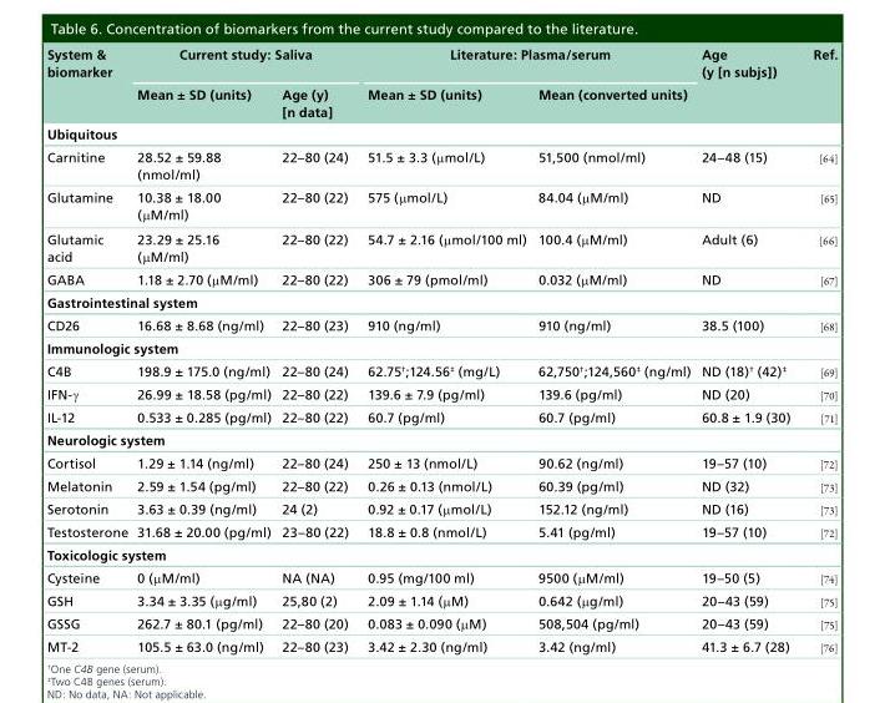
<table><thead><tr><td rowspan="2">System &amp; biomarker</td><td colspan="2">Current study: Saliva</td><td colspan="2">Literature: Plasma/serum</td><td rowspan="2">Age (y [n subjs])</td><td rowspan="2">Ref.</td></tr><tr><td>Mean ± SD (units)</td><td>Age (y) [n data]</td><td>Mean ± SD (units)</td><td>Mean (converted units)</td></tr></thead><tbody><tr><td colspan="7">Ubiquitous</td></tr><tr><td>Carnitine</td><td>28.52 ± 59.88 (nmol/ml)</td><td>22–80 (24)</td><td>51.5 ± 3.3 (μmol/L)</td><td>51,500 (nmol/ml)</td><td>24–48 (15)</td><td>[64]</td></tr><tr><td>Glutamine</td><td>10.38 ± 18.00 (μM/ml)</td><td>22–80 (22)</td><td>575 (μmol/L)</td><td>84.04 (μM/ml)</td><td>ND</td><td>[65]</td></tr><tr><td>Glutamic acid</td><td>23.29 ± 25.16 (μM/ml)</td><td>22–80 (22)</td><td>54.7 ± 2.16 (μmol/100 ml)</td><td>100.4 (μM/ml)</td><td>Adult (6)</td><td>[66]</td></tr><tr><td>GABA</td><td>1.18 ± 2.70 (μM/ml)</td><td>22–80 (22)</td><td>306 ± 79 (pmol/ml)</td><td>0.032 (μM/ml)</td><td>ND</td><td>[67]</td></tr><tr><td colspan="7">Gastrointestinal system</td></tr><tr><td>CD26</td><td>16.68 ± 8.68 (ng/ml)</td><td>22–80 (23)</td><td>910 (ng/ml)</td><td>910 (ng/ml)</td><td>38.5 (100)</td><td>[68]</td></tr><tr><td colspan="7">Immunologic system</td></tr><tr><td>C4B</td><td>198.9 ± 175.0 (ng/ml)</td><td>22–80 (24)</td><td>62.75<sup>†</sup>;124.56<sup>‡</sup> (mg/L)</td><td>62,750<sup>†</sup>;124,560<sup>‡</sup> (ng/ml)</td><td>ND (18)<sup>†</sup> (42)<sup>‡</sup></td><td>[69]</td></tr><tr><td>IFN-γ</td><td>26.99 ± 18.58 (pg/ml)</td><td>22–80 (22)</td><td>139.6 ± 7.9 (pg/ml)</td><td>139.6 (pg/ml)</td><td>ND (20)</td><td>[70]</td></tr><tr><td>IL-12</td><td>0.533 ± 0.285 (pg/ml)</td><td>22–80 (22)</td><td>60.7 (pg/ml)</td><td>60.7 (pg/ml)</td><td>60.8 ± 1.9 (30)</td><td>[71]</td></tr><tr><td colspan="7">Neurologic system</td></tr><tr><td>Cortisol</td><td>1.29 ± 1.14 (ng/ml)</td><td>22–80 (24)</td><td>250 ± 13 (nmol/L)</td><td>90.62 (ng/ml)</td><td>19–57 (10)</td><td>[72]</td></tr><tr><td>Melatonin</td><td>2.59 ± 1.54 (pg/ml)</td><td>22–80 (22)</td><td>0.26 ± 0.13 (nmol/L)</td><td>60.39 (pg/ml)</td><td>ND (32)</td><td>[73]</td></tr><tr><td>Serotonin</td><td>3.63 ± 0.39 (ng/ml)</td><td>24 (2)</td><td>0.92 ± 0.17 (μmol/L)</td><td>152.12 (ng/ml)</td><td>ND (16)</td><td>[73]</td></tr><tr><td>Testosterone</td><td>31.68 ± 20.00 (pg/ml)</td><td>23–80 (22)</td><td>18.8 ± 0.8 (nmol/L)</td><td>5.41 (pg/ml)</td><td>19–57 (10)</td><td>[72]</td></tr><tr><td colspan="7">Toxicologic system</td></tr><tr><td>Cysteine</td><td>0 (μM/ml)</td><td>NA (NA)</td><td>0.95 (mg/100 ml)</td><td>9500 (μM/ml)</td><td>19–50 (5)</td><td>[74]</td></tr><tr><td>GSH</td><td>3.34 ± 3.35 (μg/ml)</td><td>25,80 (2)</td><td>2.09 ± 1.14 (μM)</td><td>0.642 (μg/ml)</td><td>20–43 (59)</td><td>[75]</td></tr><tr><td>GSSG</td><td>262.7 ± 80.1 (pg/ml)</td><td>22–80 (20)</td><td>0.083 ± 0.090 (μM)</td><td>508,504 (pg/ml)</td><td>20–43 (59)</td><td>[75]</td></tr><tr><td>MT-2</td><td>105.5 ± 63.0 (ng/ml)</td><td>22–80 (23)</td><td>3.42 ± 2.30 (ng/ml)</td><td>3.42 (ng/ml)</td><td>41.3 ± 6.7 (28)</td><td>[76]</td></tr></tbody></table>